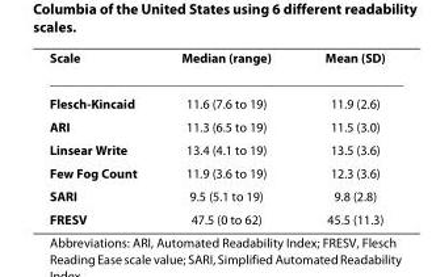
<table><thead><tr><td>Scale</td><td>Median (range)</td><td>Mean (SD)</td></tr></thead><tbody><tr><td>Flesch-Kincaid</td><td>11.6 (7.6 to 19)</td><td>11.9 (2.6)</td></tr><tr><td>ARI</td><td>11.3 (6.5 to 19)</td><td>11.5 (3.0)</td></tr><tr><td>Linsear Write</td><td>13.4 (4.1 to 19)</td><td>13.5 (3.6)</td></tr><tr><td>Few Fog Count</td><td>11.9 (3.6 to 19)</td><td>12.3 (3.6)</td></tr><tr><td>SARI</td><td>9.5 (5.1 to 19)</td><td>9.8 (2.8)</td></tr><tr><td>FRESV</td><td>47.5 (0 to 62)</td><td>45.5 (11.3)</td></tr></tbody></table>